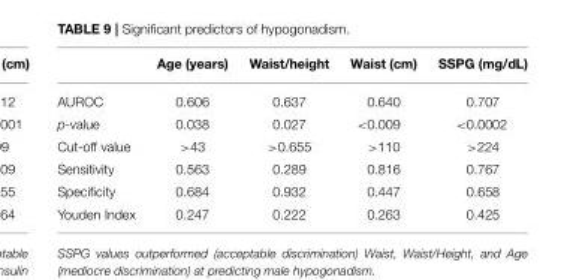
<table><thead><tr><td></td><td>Age (years)</td><td>Waist/height</td><td>Waist (cm)</td><td>SSPG (mg/dL)</td></tr></thead><tbody><tr><td>AUROC</td><td>0.606</td><td>0.637</td><td>0.640</td><td>0.707</td></tr><tr><td>p-value</td><td>0.038</td><td>0.027</td><td>&lt;0.009</td><td>&lt;0.0002</td></tr><tr><td>Cut-off value</td><td>&gt;43</td><td>&gt;0.655</td><td>&gt;110</td><td>&gt;224</td></tr><tr><td>Sensitivity</td><td>0.563</td><td>0.289</td><td>0.816</td><td>0.767</td></tr><tr><td>Specificity</td><td>0.684</td><td>0.932</td><td>0.447</td><td>0.658</td></tr><tr><td>Youden Index</td><td>0.247</td><td>0.222</td><td>0.263</td><td>0.425</td></tr></tbody></table>